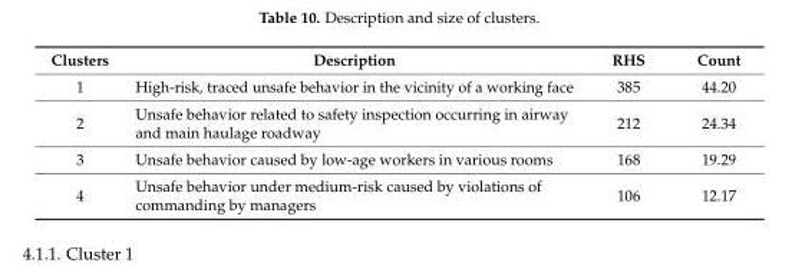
<table><thead><tr><td>Clusters</td><td>Description</td><td>RHS</td><td>Count</td></tr></thead><tbody><tr><td>1</td><td>High-risk, traced unsafe behavior in the vicinity of a working face</td><td>385</td><td>44.20</td></tr><tr><td>2</td><td>Unsafe behavior related to safety inspection occurring in airway and main haulage roadway</td><td>212</td><td>24.34</td></tr><tr><td>3</td><td>Unsafe behavior caused by low-age workers in various rooms</td><td>168</td><td>19.29</td></tr><tr><td>4</td><td>Unsafe behavior under medium-risk caused by violations of commanding by managers</td><td>106</td><td>12.17</td></tr></tbody></table>